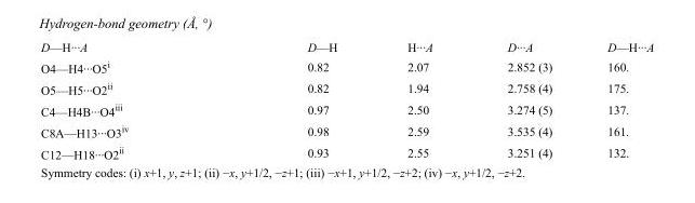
<table><tbody><tr><td>D—H···A</td><td>D—H</td><td>H···A</td><td>D···A</td><td>D—H···A</td></tr><tr><td>O4—H4···O5<sup>i</sup></td><td>0.82</td><td>2.07</td><td>2.852 (3)</td><td>160.</td></tr><tr><td>O5—H5···O2<sup>ii</sup></td><td>0.82</td><td>1.94</td><td>2.758 (4)</td><td>175.</td></tr><tr><td>C4—H4B···O4<sup>iii</sup></td><td>0.97</td><td>2.50</td><td>3.274 (5)</td><td>137.</td></tr><tr><td>C8A—H13···O3<sup>iv</sup></td><td>0.98</td><td>2.59</td><td>3.535 (4)</td><td>161.</td></tr><tr><td>C12—H18···O2<sup>ii</sup></td><td>0.93</td><td>2.55</td><td>3.251 (4)</td><td>132.</td></tr></tbody></table>